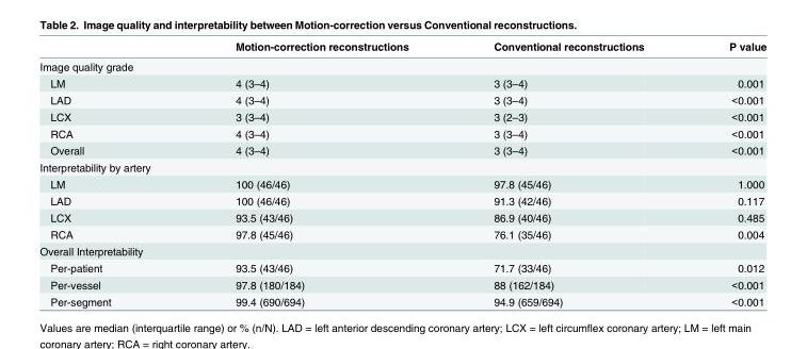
<table><thead><tr><td></td><td>Motion-correction reconstructions</td><td>Conventional reconstructions</td><td>P value</td></tr></thead><tbody><tr><td colspan="4">Image quality grade</td></tr><tr><td>LM</td><td>4 (3–4)</td><td>3 (3–4)</td><td>0.001</td></tr><tr><td>LAD</td><td>4 (3–4)</td><td>3 (3–4)</td><td>&lt;0.001</td></tr><tr><td>LCX</td><td>3 (3–4)</td><td>3 (2–3)</td><td>&lt;0.001</td></tr><tr><td>RCA</td><td>4 (3–4)</td><td>3 (3–4)</td><td>&lt;0.001</td></tr><tr><td>Overall</td><td>4 (3–4)</td><td>3 (3–4)</td><td>&lt;0.001</td></tr><tr><td colspan="4">Interpretability by artery</td></tr><tr><td>LM</td><td>100 (46/46)</td><td>97.8 (45/46)</td><td>1.000</td></tr><tr><td>LAD</td><td>100 (46/46)</td><td>91.3 (42/46)</td><td>0.117</td></tr><tr><td>LCX</td><td>93.5 (43/46)</td><td>86.9 (40/46)</td><td>0.485</td></tr><tr><td>RCA</td><td>97.8 (45/46)</td><td>76.1 (35/46)</td><td>0.004</td></tr><tr><td colspan="4">Overall Interpretability</td></tr><tr><td>Per-patient</td><td>93.5 (43/46)</td><td>71.7 (33/46)</td><td>0.012</td></tr><tr><td>Per-vessel</td><td>97.8 (180/184)</td><td>88 (162/184)</td><td>&lt;0.001</td></tr><tr><td>Per-segment</td><td>99.4 (690/694)</td><td>94.9 (659/694)</td><td>&lt;0.001</td></tr></tbody></table>